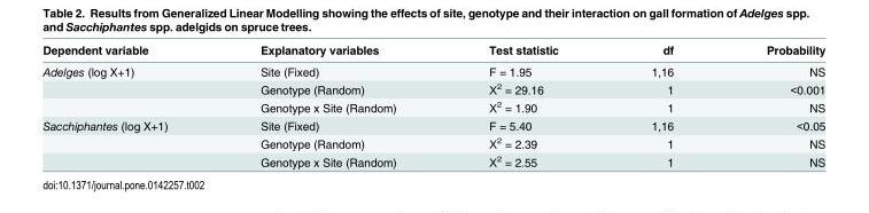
<table><thead><tr><td>Dependent variable</td><td>Explanatory variables</td><td>Test statistic</td><td>df</td><td>Probability</td></tr></thead><tbody><tr><td rowspan="3">Adelges (log X+1)</td><td>Site (Fixed)</td><td>F = 1.95</td><td>1,16</td><td>NS</td></tr><tr><td>Genotype (Random)</td><td>Χ<sup>2</sup> = 29.16</td><td>1</td><td>&lt;0.001</td></tr><tr><td>Genotype x Site (Random)</td><td>Χ<sup>2</sup> = 1.90</td><td>1</td><td>NS</td></tr><tr><td rowspan="3">Sacchiphantes (log X+1)</td><td>Site (Fixed)</td><td>F = 5.40</td><td>1,16</td><td>&lt;0.05</td></tr><tr><td>Genotype (Random)</td><td>Χ<sup>2</sup> = 2.39</td><td>1</td><td>NS</td></tr><tr><td>Genotype x Site (Random)</td><td>Χ<sup>2</sup> = 2.55</td><td>1</td><td>NS</td></tr></tbody></table>